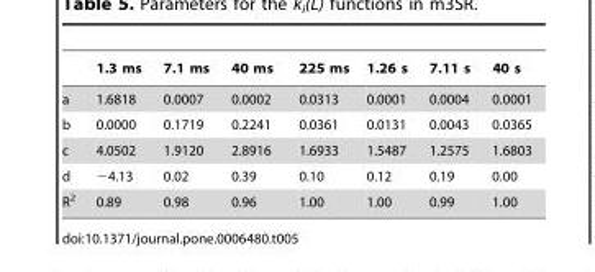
<table><thead><tr><td></td><td>1.3 ms</td><td>7.1 ms</td><td>40 ms</td><td>225 ms</td><td>1.26 s</td><td>7.11 s</td><td>40 s</td></tr></thead><tbody><tr><td>a</td><td>1.6818</td><td>0.0007</td><td>0.0002</td><td>0.0313</td><td>0.0001</td><td>0.0004</td><td>0.0001</td></tr><tr><td>b</td><td>0.0000</td><td>0.1719</td><td>0.2241</td><td>0.0361</td><td>0.0131</td><td>0.0043</td><td>0.0365</td></tr><tr><td>c</td><td>4.0502</td><td>1.9120</td><td>2.8916</td><td>1.6933</td><td>1.5487</td><td>1.2575</td><td>1.6803</td></tr><tr><td>d</td><td>−4.13</td><td>0.02</td><td>0.39</td><td>0.10</td><td>0.12</td><td>0.19</td><td>0.00</td></tr><tr><td>R<sup>2</sup></td><td>0.89</td><td>0.98</td><td>0.96</td><td>1.00</td><td>1.00</td><td>0.99</td><td>1.00</td></tr></tbody></table>